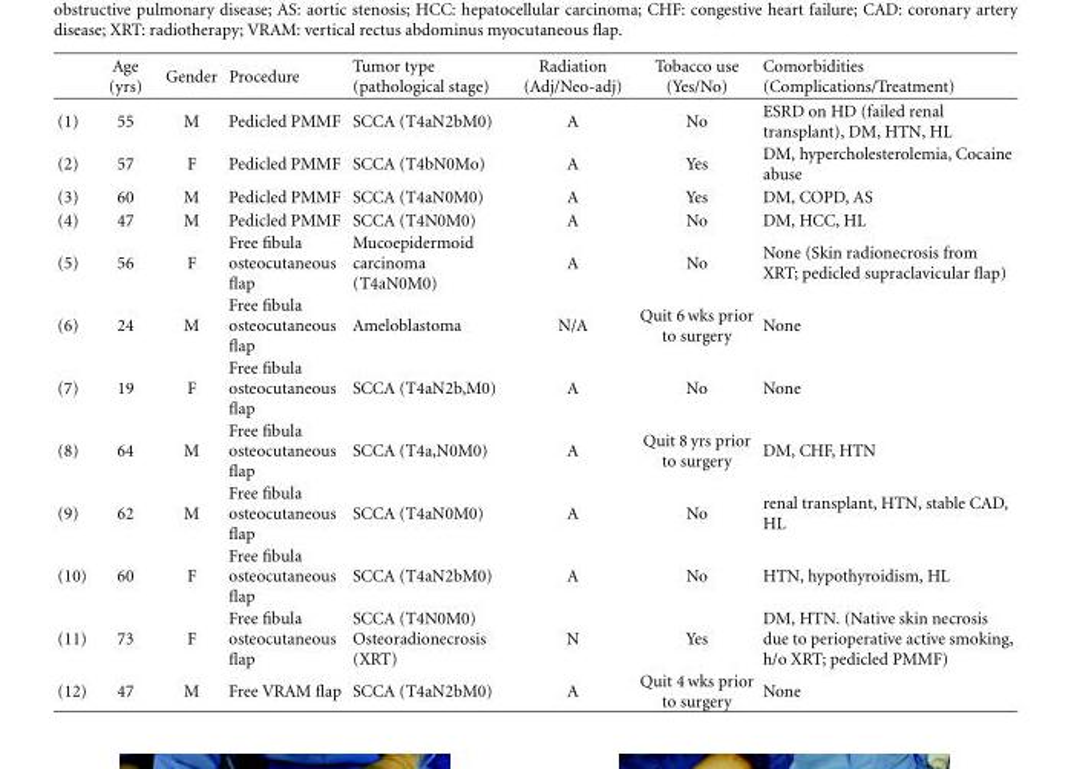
<table><thead><tr><td></td><td>Age (yrs)</td><td>Gender</td><td>Procedure</td><td>Tumor type (pathological stage)</td><td>Radiation (Adj/Neo-adj)</td><td>Tobacco use (Yes/No)</td><td>Comorbidities (Complications/Treatment)</td></tr></thead><tbody><tr><td>(1)</td><td>55</td><td>M</td><td>Pedicled PMMF</td><td>SCCA (T4aN2bM0)</td><td>A</td><td>No</td><td>ESRD on HD (failed renal transplant), DM, HTN, HL</td></tr><tr><td>(2)</td><td>57</td><td>F</td><td>Pedicled PMMF</td><td>SCCA (T4bN0Mo)</td><td>A</td><td>Yes</td><td>DM, hypercholesterolemia, Cocaine abuse</td></tr><tr><td>(3)</td><td>60</td><td>M</td><td>Pedicled PMMF</td><td>SCCA (T4aN0M0)</td><td>A</td><td>Yes</td><td>DM, COPD, AS</td></tr><tr><td>(4)</td><td>47</td><td>M</td><td>Pedicled PMMF</td><td>SCCA (T4N0M0)</td><td>A</td><td>No</td><td>DM, HCC, HL</td></tr><tr><td>(5)</td><td>56</td><td>F</td><td>Free fibula osteocutaneous flap</td><td>Mucoepidermoid carcinoma (T4aN0M0)</td><td>A</td><td>No</td><td>None (Skin radionecrosis from XRT; pedicled supraclavicular flap)</td></tr><tr><td>(6)</td><td>24</td><td>M</td><td>Free fibula osteocutaneous flap</td><td>Ameloblastoma</td><td>N/A</td><td>Quit 6 wks prior to surgery</td><td>None</td></tr><tr><td>(7)</td><td>19</td><td>F</td><td>Free fibula osteocutaneous flap</td><td>SCCA (T4aN2b,M0)</td><td>A</td><td>No</td><td>None</td></tr><tr><td>(8)</td><td>64</td><td>M</td><td>Free fibula osteocutaneous flap</td><td>SCCA (T4a,N0M0)</td><td>A</td><td>Quit 8 yrs prior to surgery</td><td>DM, CHF, HTN</td></tr><tr><td>(9)</td><td>62</td><td>M</td><td>Free fibula osteocutaneous flap</td><td>SCCA (T4aN0M0)</td><td>A</td><td>No</td><td>renal transplant, HTN, stable CAD, HL</td></tr><tr><td>(10)</td><td>60</td><td>F</td><td>Free fibula osteocutaneous flap</td><td>SCCA (T4aN2bM0)</td><td>A</td><td>No</td><td>HTN, hypothyroidism, HL</td></tr><tr><td>(11)</td><td>73</td><td>F</td><td>Free fibula osteocutaneous flap</td><td>SCCA (T4N0M0) Osteoradionecrosis (XRT)</td><td>N</td><td>Yes</td><td>DM, HTN. (Native skin necrosis due to perioperative active smoking, h/o XRT; pedicled PMMF)</td></tr><tr><td>(12)</td><td>47</td><td>M</td><td>Free VRAM flap</td><td>SCCA (T4aN2bM0)</td><td>A</td><td>Quit 4 wks prior to surgery</td><td>None</td></tr></tbody></table>